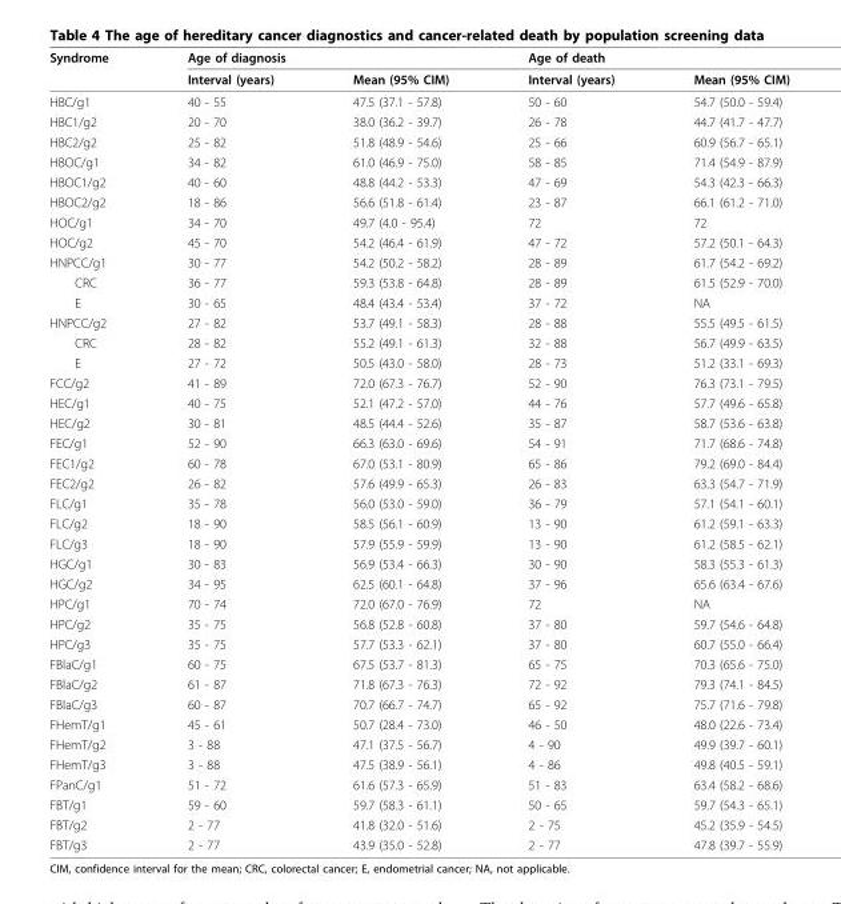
<table><thead><tr><td rowspan="2">Syndrome</td><td colspan="2">Age of diagnosis</td><td colspan="2">Age of death</td></tr><tr><td>Interval (years)</td><td>Mean (95% CIM)</td><td>Interval (years)</td><td>Mean (95% CIM)</td></tr></thead><tbody><tr><td>HBC/g1</td><td>40 - 55</td><td>47.5 (37.1 - 57.8)</td><td>50 - 60</td><td>54.7 (50.0 - 59.4)</td></tr><tr><td>HBC1/g2</td><td>20 - 70</td><td>38.0 (36.2 - 39.7)</td><td>26 - 78</td><td>44.7 (41.7 - 47.7)</td></tr><tr><td>HBC2/g2</td><td>25 - 82</td><td>51.8 (48.9 - 54.6)</td><td>25 - 66</td><td>60.9 (56.7 - 65.1)</td></tr><tr><td>HBOC/g1</td><td>34 - 82</td><td>61.0 (46.9 - 75.0)</td><td>58 - 85</td><td>71.4 (54.9 - 87.9)</td></tr><tr><td>HBOC1/g2</td><td>40 - 60</td><td>48.8 (44.2 - 53.3)</td><td>47 - 69</td><td>54.3 (42.3 - 66.3)</td></tr><tr><td>HBOC2/g2</td><td>18 - 86</td><td>56.6 (51.8 - 61.4)</td><td>23 - 87</td><td>66.1 (61.2 - 71.0)</td></tr><tr><td>HOC/g1</td><td>34 - 70</td><td>49.7 (4.0 - 95.4)</td><td>72</td><td>72</td></tr><tr><td>HOC/g2</td><td>45 - 70</td><td>54.2 (46.4 - 61.9)</td><td>47 - 72</td><td>57.2 (50.1 - 64.3)</td></tr><tr><td>HNPCC/g1</td><td>30 - 77</td><td>54.2 (50.2 - 58.2)</td><td>28 - 89</td><td>61.7 (54.2 - 69.2)</td></tr><tr><td>CRC</td><td>36 - 77</td><td>59.3 (53.8 - 64.8)</td><td>28 - 89</td><td>61.5 (52.9 - 70.0)</td></tr><tr><td>E</td><td>30 - 65</td><td>48.4 (43.4 - 53.4)</td><td>37 - 72</td><td>NA</td></tr><tr><td>HNPCC/g2</td><td>27 - 82</td><td>53.7 (49.1 - 58.3)</td><td>28 - 88</td><td>55.5 (49.5 - 61.5)</td></tr><tr><td>CRC</td><td>28 - 82</td><td>55.2 (49.1 - 61.3)</td><td>32 - 88</td><td>56.7 (49.9 - 63.5)</td></tr><tr><td>E</td><td>27 - 72</td><td>50.5 (43.0 - 58.0)</td><td>28 - 73</td><td>51.2 (33.1 - 69.3)</td></tr><tr><td>FCC/g2</td><td>41 - 89</td><td>72.0 (67.3 - 76.7)</td><td>52 - 90</td><td>76.3 (73.1 - 79.5)</td></tr><tr><td>HEC/g1</td><td>40 - 75</td><td>52.1 (47.2 - 57.0)</td><td>44 - 76</td><td>57.7 (49.6 - 65.8)</td></tr><tr><td>HEC/g2</td><td>30 - 81</td><td>48.5 (44.4 - 52.6)</td><td>35 - 87</td><td>58.7 (53.6 - 63.8)</td></tr><tr><td>FEC/g1</td><td>52 - 90</td><td>66.3 (63.0 - 69.6)</td><td>54 - 91</td><td>71.7 (68.6 - 74.8)</td></tr><tr><td>FEC1/g2</td><td>60 - 78</td><td>67.0 (53.1 - 80.9)</td><td>65 - 86</td><td>79.2 (69.0 - 84.4)</td></tr><tr><td>FEC2/g2</td><td>26 - 82</td><td>57.6 (49.9 - 65.3)</td><td>26 - 83</td><td>63.3 (54.7 - 71.9)</td></tr><tr><td>FLC/g1</td><td>35 - 78</td><td>56.0 (53.0 - 59.0)</td><td>36 - 79</td><td>57.1 (54.1 - 60.1)</td></tr><tr><td>FLC/g2</td><td>18 - 90</td><td>58.5 (56.1 - 60.9)</td><td>13 - 90</td><td>61.2 (59.1 - 63.3)</td></tr><tr><td>FLC/g3</td><td>18 - 90</td><td>57.9 (55.9 - 59.9)</td><td>13 - 90</td><td>61.2 (58.5 - 62.1)</td></tr><tr><td>HGC/g1</td><td>30 - 83</td><td>56.9 (53.4 - 66.3)</td><td>30 - 90</td><td>58.3 (55.3 - 61.3)</td></tr><tr><td>HGC/g2</td><td>34 - 95</td><td>62.5 (60.1 - 64.8)</td><td>37 - 96</td><td>65.6 (63.4 - 67.6)</td></tr><tr><td>HPC/g1</td><td>70 - 74</td><td>72.0 (67.0 - 76.9)</td><td>72</td><td>NA</td></tr><tr><td>HPC/g2</td><td>35 - 75</td><td>56.8 (52.8 - 60.8)</td><td>37 - 80</td><td>59.7 (54.6 - 64.8)</td></tr><tr><td>HPC/g3</td><td>35 - 75</td><td>57.7 (53.3 - 62.1)</td><td>37 - 80</td><td>60.7 (55.0 - 66.4)</td></tr><tr><td>FBlaC/g1</td><td>60 - 75</td><td>67.5 (53.7 - 81.3)</td><td>65 - 75</td><td>70.3 (65.6 - 75.0)</td></tr><tr><td>FBlaC/g2</td><td>61 - 87</td><td>71.8 (67.3 - 76.3)</td><td>72 - 92</td><td>79.3 (74.1 - 84.5)</td></tr><tr><td>FBlaC/g3</td><td>60 - 87</td><td>70.7 (66.7 - 74.7)</td><td>65 - 92</td><td>75.7 (71.6 - 79.8)</td></tr><tr><td>FHemT/g1</td><td>45 - 61</td><td>50.7 (28.4 - 73.0)</td><td>46 - 50</td><td>48.0 (22.6 - 73.4)</td></tr><tr><td>FHemT/g2</td><td>3 - 88</td><td>47.1 (37.5 - 56.7)</td><td>4 - 90</td><td>49.9 (39.7 - 60.1)</td></tr><tr><td>FHemT/g3</td><td>3 - 88</td><td>47.5 (38.9 - 56.1)</td><td>4 - 86</td><td>49.8 (40.5 - 59.1)</td></tr><tr><td>FPanC/g1</td><td>51 - 72</td><td>61.6 (57.3 - 65.9)</td><td>51 - 83</td><td>63.4 (58.2 - 68.6)</td></tr><tr><td>FBT/g1</td><td>59 - 60</td><td>59.7 (58.3 - 61.1)</td><td>50 - 65</td><td>59.7 (54.3 - 65.1)</td></tr><tr><td>FBT/g2</td><td>2 - 77</td><td>41.8 (32.0 - 51.6)</td><td>2 - 75</td><td>45.2 (35.9 - 54.5)</td></tr><tr><td>FBT/g3</td><td>2 - 77</td><td>43.9 (35.0 - 52.8)</td><td>2 - 77</td><td>47.8 (39.7 - 55.9)</td></tr></tbody></table>